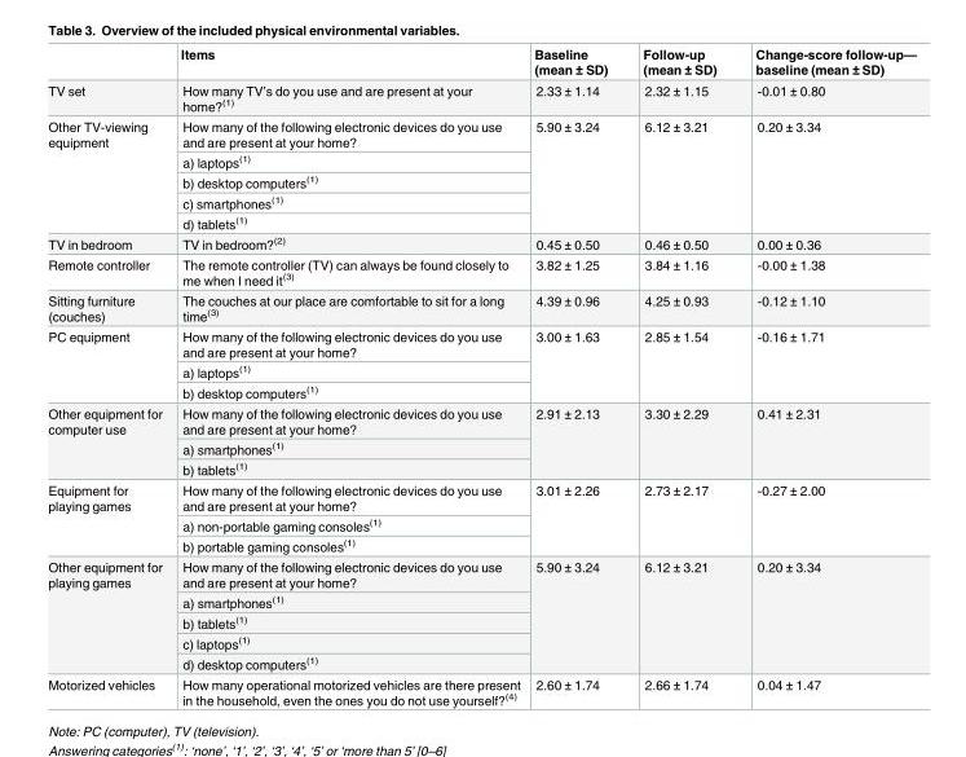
<table><thead><tr><td></td><td>Items</td><td>Baseline (mean ± SD)</td><td>Follow-up (mean ± SD)</td><td>Change-score follow-up— baseline (mean ± SD)</td></tr></thead><tbody><tr><td>TV set</td><td>How many TV’s do you use and are present at your home?<sup>(1)</sup></td><td>2.33 ± 1.14</td><td>2.32 ± 1.15</td><td>-0.01 ± 0.80</td></tr><tr><td rowspan="5">Other TV-viewing equipment</td><td>How many of the following electronic devices do you use and are present at your home?</td><td rowspan="5">5.90 ± 3.24</td><td rowspan="5">6.12 ± 3.21</td><td rowspan="5">0.20 ± 3.34</td></tr><tr><td>a) laptops<sup>(1)</sup></td></tr><tr><td>b) desktop computers<sup>(1)</sup></td></tr><tr><td>c) smartphones<sup>(1)</sup></td></tr><tr><td>d) tablets<sup>(1)</sup></td></tr><tr><td>TV in bedroom</td><td>TV in bedroom?<sup>(2)</sup></td><td>0.45 ± 0.50</td><td>0.46 ± 0.50</td><td>0.00 ± 0.36</td></tr><tr><td>Remote controller</td><td>The remote controller (TV) can always be found closely to me when I need it<sup>(3)</sup></td><td>3.82 ± 1.25</td><td>3.84 ± 1.16</td><td>-0.00 ± 1.38</td></tr><tr><td>Sitting furniture (couches)</td><td>The couches at our place are comfortable to sit for a long time<sup>(3)</sup></td><td>4.39 ± 0.96</td><td>4.25 ± 0.93</td><td>-0.12 ± 1.10</td></tr><tr><td rowspan="3">PC equipment</td><td>How many of the following electronic devices do you use and are present at your home?</td><td rowspan="3">3.00 ± 1.63</td><td rowspan="3">2.85 ± 1.54</td><td rowspan="3">-0.16 ± 1.71</td></tr><tr><td>a) laptops<sup>(1)</sup></td></tr><tr><td>b) desktop computers<sup>(1)</sup></td></tr><tr><td rowspan="3">Other equipment for computer use</td><td>How many of the following electronic devices do you use and are present at your home?</td><td rowspan="3">2.91 ± 2.13</td><td rowspan="3">3.30 ± 2.29</td><td rowspan="3">0.41 ± 2.31</td></tr><tr><td>a) smartphones<sup>(1)</sup></td></tr><tr><td>b) tablets<sup>(1)</sup></td></tr><tr><td rowspan="3">Equipment for playing games</td><td>How many of the following electronic devices do you use and are present at your home?</td><td rowspan="3">3.01 ± 2.26</td><td rowspan="3">2.73 ± 2.17</td><td rowspan="3">-0.27 ± 2.00</td></tr><tr><td>a) non-portable gaming consoles<sup>(1)</sup></td></tr><tr><td>b) portable gaming consoles<sup>(1)</sup></td></tr><tr><td rowspan="5">Other equipment for playing games</td><td>How many of the following electronic devices do you use and are present at your home?</td><td rowspan="5">5.90 ± 3.24</td><td rowspan="5">6.12 ± 3.21</td><td rowspan="5">0.20 ± 3.34</td></tr><tr><td>a) smartphones<sup>(1)</sup></td></tr><tr><td>b) tablets<sup>(1)</sup></td></tr><tr><td>c) laptops<sup>(1)</sup></td></tr><tr><td>d) desktop computers<sup>(1)</sup></td></tr><tr><td>Motorized vehicles</td><td>How many operational motorized vehicles are there present in the household, even the ones you do not use yourself?<sup>(4)</sup></td><td>2.60 ± 1.74</td><td>2.66 ± 1.74</td><td>0.04 ± 1.47</td></tr></tbody></table>